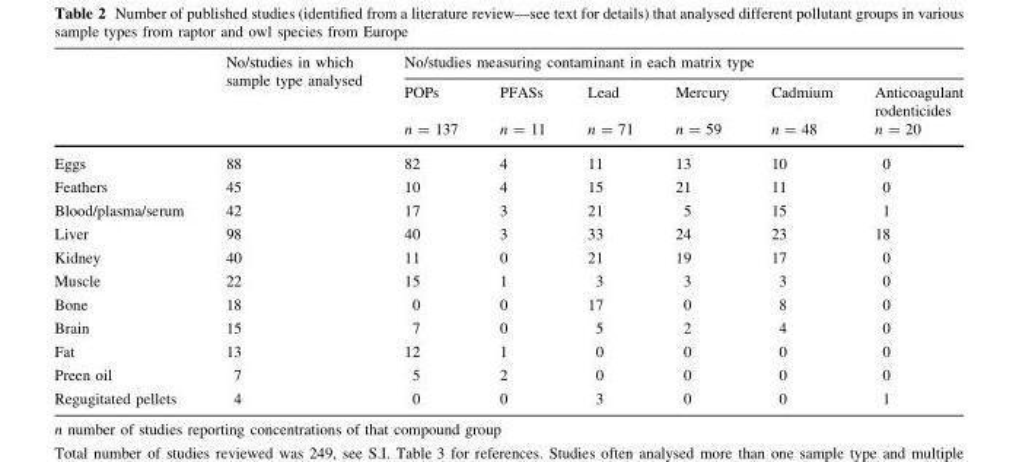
<table><thead><tr><td rowspan="3"></td><td rowspan="3">No/studies in which sample type analysed</td><td colspan="6">No/studies measuring contaminant in each matrix type</td></tr><tr><td rowspan="2">POPs n = 137</td><td rowspan="2">PFASs n = 11</td><td rowspan="2">Lead n = 71</td><td rowspan="2">Mercury n = 59</td><td rowspan="2">Cadmium n = 48</td><td rowspan="2">Anticoagulant rodenticides n = 20</td></tr><tr></tr></thead><tbody><tr><td>Eggs</td><td>88</td><td>82</td><td>4</td><td>11</td><td>13</td><td>10</td><td>0</td></tr><tr><td>Feathers</td><td>45</td><td>10</td><td>4</td><td>15</td><td>21</td><td>11</td><td>0</td></tr><tr><td>Blood/plasma/serum</td><td>42</td><td>17</td><td>3</td><td>21</td><td>5</td><td>15</td><td>1</td></tr><tr><td>Liver</td><td>98</td><td>40</td><td>3</td><td>33</td><td>24</td><td>23</td><td>18</td></tr><tr><td>Kidney</td><td>40</td><td>11</td><td>0</td><td>21</td><td>19</td><td>17</td><td>0</td></tr><tr><td>Muscle</td><td>22</td><td>15</td><td>1</td><td>3</td><td>3</td><td>3</td><td>0</td></tr><tr><td>Bone</td><td>18</td><td>0</td><td>0</td><td>17</td><td>0</td><td>8</td><td>0</td></tr><tr><td>Brain</td><td>15</td><td>7</td><td>0</td><td>5</td><td>2</td><td>4</td><td>0</td></tr><tr><td>Fat</td><td>13</td><td>12</td><td>1</td><td>0</td><td>0</td><td>0</td><td>0</td></tr><tr><td>Preen oil</td><td>7</td><td>5</td><td>2</td><td>0</td><td>0</td><td>0</td><td>0</td></tr><tr><td>Regugitated pellets</td><td>4</td><td>0</td><td>0</td><td>3</td><td>0</td><td>0</td><td>1</td></tr></tbody></table>